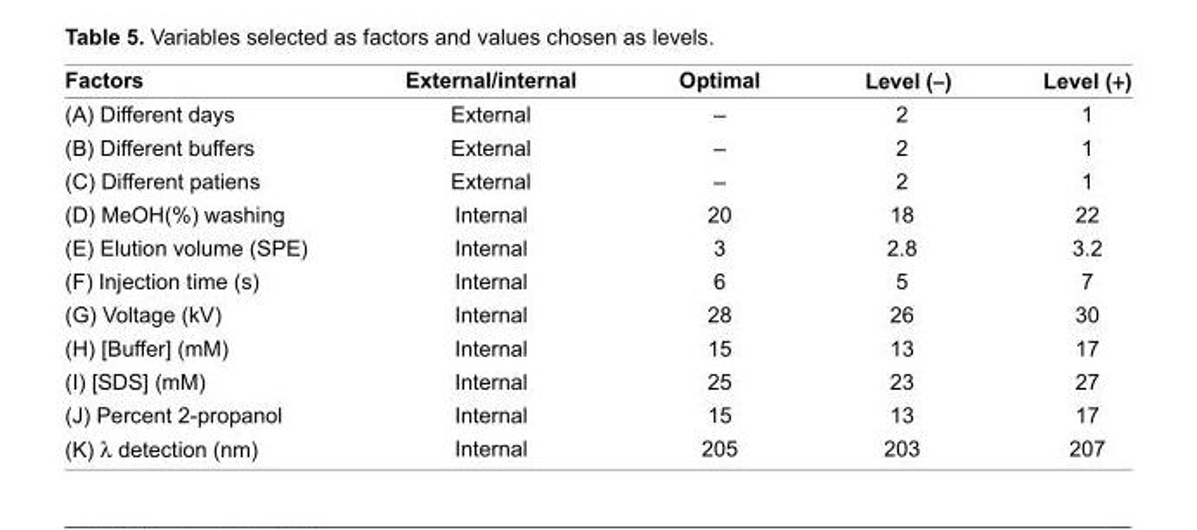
<table><thead><tr><td>Factors</td><td>External/internal</td><td>Optimal</td><td>Level (−)</td><td>Level (+)</td></tr></thead><tbody><tr><td>(A) Different days</td><td>External</td><td>–</td><td>2</td><td>1</td></tr><tr><td>(B) Different buffers</td><td>External</td><td>–</td><td>2</td><td>1</td></tr><tr><td>(C) Different patiens</td><td>External</td><td>–</td><td>2</td><td>1</td></tr><tr><td>(D) MeOH(%) washing</td><td>Internal</td><td>20</td><td>18</td><td>22</td></tr><tr><td>(E) Elution volume (SPE)</td><td>Internal</td><td>3</td><td>2.8</td><td>3.2</td></tr><tr><td>(F) Injection time (s)</td><td>Internal</td><td>6</td><td>5</td><td>7</td></tr><tr><td>(G) Voltage (kV)</td><td>Internal</td><td>28</td><td>26</td><td>30</td></tr><tr><td>(H) [Buffer] (mM)</td><td>Internal</td><td>15</td><td>13</td><td>17</td></tr><tr><td>(I) [SDS] (mM)</td><td>Internal</td><td>25</td><td>23</td><td>27</td></tr><tr><td>(J) Percent 2-propanol</td><td>Internal</td><td>15</td><td>13</td><td>17</td></tr><tr><td>(K) λ detection (nm)</td><td>Internal</td><td>205</td><td>203</td><td>207</td></tr></tbody></table>